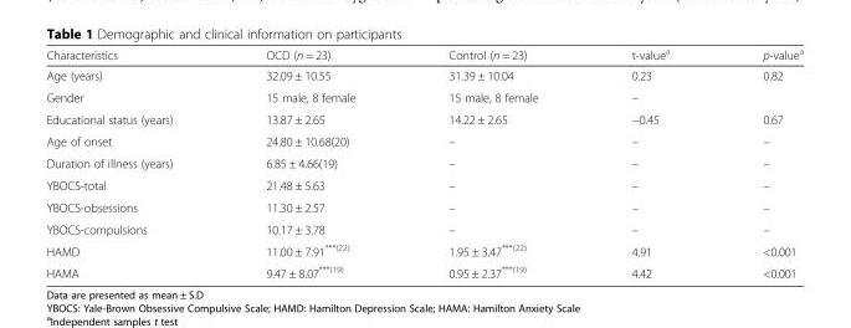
<table><thead><tr><td>Characteristics</td><td>OCD (n = 23)</td><td>Control (n = 23)</td><td>t-value<sup>a</sup></td><td>p-value<sup>a</sup></td></tr></thead><tbody><tr><td>Age (years)</td><td>32.09 ± 10.55</td><td>31.39 ± 10.04</td><td>0.23</td><td>0.82</td></tr><tr><td>Gender</td><td>15 male, 8 female</td><td>15 male, 8 female</td><td>–</td><td></td></tr><tr><td>Educational status (years)</td><td>13.87 ± 2.65</td><td>14.22 ± 2.65</td><td>−0.45</td><td>0.67</td></tr><tr><td>Age of onset</td><td>24.80 ± 10.68(20)</td><td>–</td><td>–</td><td>–</td></tr><tr><td>Duration of illness (years)</td><td>6.85 ± 4.66(19)</td><td>–</td><td>–</td><td>–</td></tr><tr><td>YBOCS-total</td><td>21.48 ± 5.63</td><td>–</td><td>–</td><td>–</td></tr><tr><td>YBOCS-obsessions</td><td>11.30 ± 2.57</td><td>–</td><td>–</td><td>–</td></tr><tr><td>YBOCS-compulsions</td><td>10.17 ± 3.78</td><td>–</td><td>–</td><td>–</td></tr><tr><td>HAMD</td><td>11.00 ± 7.91<sup>***(22)</sup></td><td>1.95 ± 3.47<sup>***(22)</sup></td><td>4.91</td><td>&lt;0.001</td></tr><tr><td>HAMA</td><td>9.47 ± 8.07<sup>***(19)</sup></td><td>0.95 ± 2.37<sup>***(19)</sup></td><td>4.42</td><td>&lt;0.001</td></tr></tbody></table>